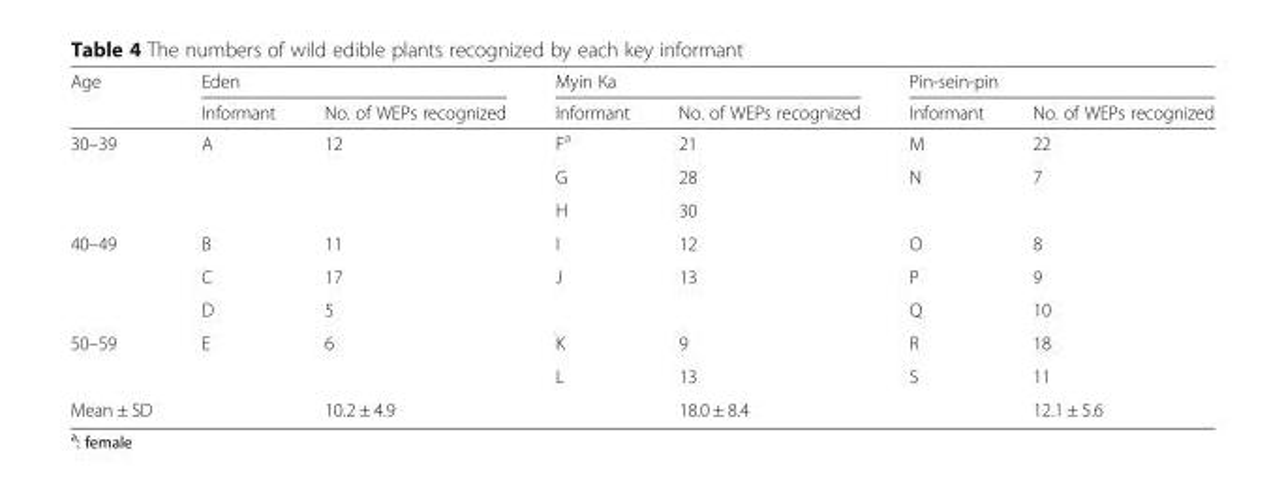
<table><thead><tr><td rowspan="2">Age</td><td colspan="2">Eden</td><td colspan="2">Myin Ka</td><td colspan="2">Pin-sein-pin</td></tr><tr><td>Informant</td><td>No. of WEPs recognized</td><td>Informant</td><td>No. of WEPs recognized</td><td>Informant</td><td>No. of WEPs recognized</td></tr></thead><tbody><tr><td rowspan="3">30–39</td><td>A</td><td>12</td><td>F<sup>a</sup></td><td>21</td><td>M</td><td>22</td></tr><tr><td></td><td></td><td>G</td><td>28</td><td>N</td><td>7</td></tr><tr><td></td><td></td><td>H</td><td>30</td><td></td><td></td></tr><tr><td rowspan="3">40–49</td><td>B</td><td>11</td><td>I</td><td>12</td><td>O</td><td>8</td></tr><tr><td>C</td><td>17</td><td>J</td><td>13</td><td>P</td><td>9</td></tr><tr><td>D</td><td>5</td><td></td><td></td><td>Q</td><td>10</td></tr><tr><td rowspan="2">50–59</td><td>E</td><td>6</td><td>K</td><td>9</td><td>R</td><td>18</td></tr><tr><td></td><td></td><td>L</td><td>13</td><td>S</td><td>11</td></tr><tr><td>Mean ± SD</td><td></td><td>10.2 ± 4.9</td><td></td><td>18.0 ± 8.4</td><td></td><td>12.1 ± 5.6</td></tr></tbody></table>